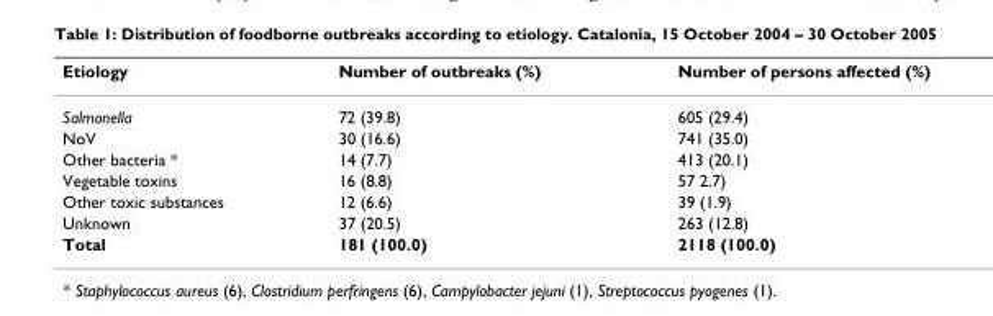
<table><thead><tr><td>Etiology</td><td>Number of outbreaks (%)</td><td>Number of persons affected (%)</td></tr></thead><tbody><tr><td>Salmonella</td><td>72 (39.8)</td><td>605 (29.4)</td></tr><tr><td>NoV</td><td>30 (16.6)</td><td>741 (35.0)</td></tr><tr><td>Other bacteria *</td><td>14 (7.7)</td><td>413 (20.1)</td></tr><tr><td>Vegetable toxins</td><td>16 (8.8)</td><td>57 2.7)</td></tr><tr><td>Other toxic substances</td><td>12 (6.6)</td><td>39 (1.9)</td></tr><tr><td>Unknown</td><td>37 (20.5)</td><td>263 (12.8)</td></tr><tr><td>Total</td><td>181 (100.0)</td><td>2118 (100.0)</td></tr></tbody></table>